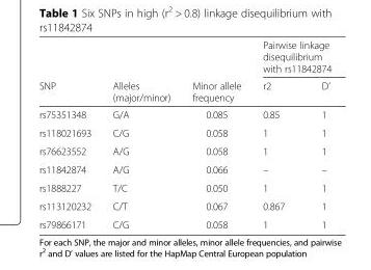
<table><thead><tr><td rowspan="2">SNP</td><td rowspan="2">Alleles (major/minor)</td><td rowspan="2">Minor allele frequency</td><td colspan="2">Pairwise linkage disequilibrium with rs11842874</td></tr><tr><td>r2</td><td>D’</td></tr></thead><tbody><tr><td>rs75351348</td><td>G/A</td><td>0.085</td><td>0.85</td><td>1</td></tr><tr><td>rs118021693</td><td>C/G</td><td>0.058</td><td>1</td><td>1</td></tr><tr><td>rs76623552</td><td>A/G</td><td>0.058</td><td>1</td><td>1</td></tr><tr><td>rs11842874</td><td>A/G</td><td>0.066</td><td>–</td><td>–</td></tr><tr><td>rs1888227</td><td>T/C</td><td>0.050</td><td>1</td><td>1</td></tr><tr><td>rs113120232</td><td>C/T</td><td>0.067</td><td>0.867</td><td>1</td></tr><tr><td>rs79866171</td><td>C/G</td><td>0.058</td><td>1</td><td>1</td></tr></tbody></table>